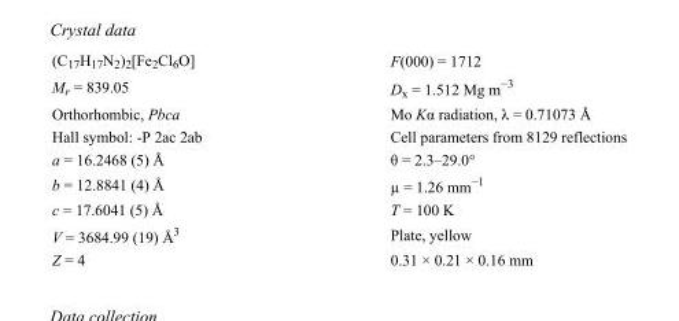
<table><tbody><tr><td>(C<sub>17</sub>H<sub>17</sub>N<sub>2</sub>)<sub>2</sub>[Fe<sub>2</sub>Cl<sub>6</sub>O]</td><td>F(000) = 1712</td></tr><tr><td>M<sub>r</sub> = 839.05</td><td>D<sub>x</sub> = 1.512 Mg m<sup>−3</sup></td></tr><tr><td>Orthorhombic, Pbca</td><td>Mo Kα radiation, λ = 0.71073 Å</td></tr><tr><td>Hall symbol: -P 2ac 2ab</td><td>Cell parameters from 8129 reflections</td></tr><tr><td>a = 16.2468 (5) Å</td><td>θ = 2.3–29.0°</td></tr><tr><td>b = 12.8841 (4) Å</td><td>µ = 1.26 mm<sup>−1</sup></td></tr><tr><td>c = 17.6041 (5) Å</td><td>T = 100 K</td></tr><tr><td>V = 3684.99 (19) Å<sup>3</sup></td><td>Plate, yellow</td></tr><tr><td>Z = 4</td><td>0.31 × 0.21 × 0.16 mm</td></tr></tbody></table>